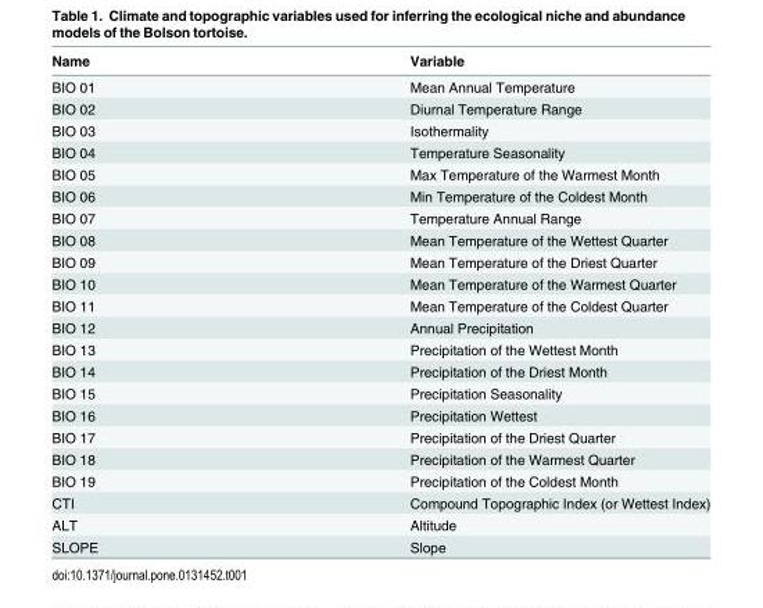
<table><thead><tr><td>Name</td><td>Variable</td></tr></thead><tbody><tr><td>BIO 01</td><td>Mean Annual Temperature</td></tr><tr><td>BIO 02</td><td>Diurnal Temperature Range</td></tr><tr><td>BIO 03</td><td>Isothermality</td></tr><tr><td>BIO 04</td><td>Temperature Seasonality</td></tr><tr><td>BIO 05</td><td>Max Temperature of the Warmest Month</td></tr><tr><td>BIO 06</td><td>Min Temperature of the Coldest Month</td></tr><tr><td>BIO 07</td><td>Temperature Annual Range</td></tr><tr><td>BIO 08</td><td>Mean Temperature of the Wettest Quarter</td></tr><tr><td>BIO 09</td><td>Mean Temperature of the Driest Quarter</td></tr><tr><td>BIO 10</td><td>Mean Temperature of the Warmest Quarter</td></tr><tr><td>BIO 11</td><td>Mean Temperature of the Coldest Quarter</td></tr><tr><td>BIO 12</td><td>Annual Precipitation</td></tr><tr><td>BIO 13</td><td>Precipitation of the Wettest Month</td></tr><tr><td>BIO 14</td><td>Precipitation of the Driest Month</td></tr><tr><td>BIO 15</td><td>Precipitation Seasonality</td></tr><tr><td>BIO 16</td><td>Precipitation Wettest</td></tr><tr><td>BIO 17</td><td>Precipitation of the Driest Quarter</td></tr><tr><td>BIO 18</td><td>Precipitation of the Warmest Quarter</td></tr><tr><td>BIO 19</td><td>Precipitation of the Coldest Month</td></tr><tr><td>CTI</td><td>Compound Topographic Index (or Wettest Index)</td></tr><tr><td>ALT</td><td>Altitude</td></tr><tr><td>SLOPE</td><td>Slope</td></tr></tbody></table>